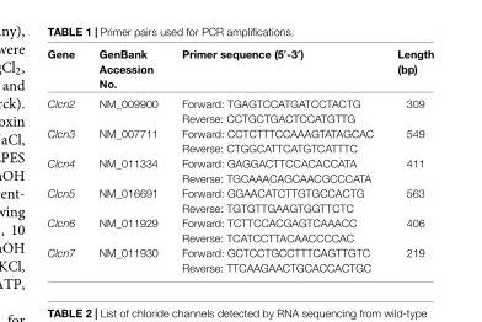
<table><thead><tr><td>Gene</td><td>GenBank Accession No.</td><td>Primer sequence (5′-3′)</td><td>Length (bp)</td></tr></thead><tbody><tr><td rowspan="2">Clcn2</td><td>NM_009900</td><td>Forward: TGAGTCCATGATCCTACTG</td><td>309</td></tr><tr><td></td><td>Reverse: CCTGCTGACTCCATGTTG</td><td></td></tr><tr><td rowspan="2">Clcn3</td><td>NM_007711</td><td>Forward: CCTCTTTCCAAAGTATAGCAC</td><td>549</td></tr><tr><td></td><td>Reverse: CTGGCATTCATGTCATTTC</td><td></td></tr><tr><td rowspan="2">Clcn4</td><td>NM_011334</td><td>Forward: GAGGACTTCCACACCATA</td><td>411</td></tr><tr><td></td><td>Reverse: TGCAAACAGCAACGCCCATA</td><td></td></tr><tr><td rowspan="2">Clcn5</td><td>NM_016691</td><td>Forward: GGAACATCTTGTGCCACTG</td><td>563</td></tr><tr><td></td><td>Reverse: TGTGTTGAAGTGGTTCTC</td><td></td></tr><tr><td rowspan="2">Clcn6</td><td>NM_011929</td><td>Forward: TCTTCCACGAGTCAAACC</td><td>406</td></tr><tr><td></td><td>Reverse: TCATCCTTACAACCCCAC</td><td></td></tr><tr><td rowspan="2">Clcn7</td><td>NM_011930</td><td>Forward: GCTCCTGCCTTTCAGTTGTC</td><td>219</td></tr><tr><td></td><td>Reverse: TTCAAGAACTGCACCACTGC</td><td></td></tr></tbody></table>